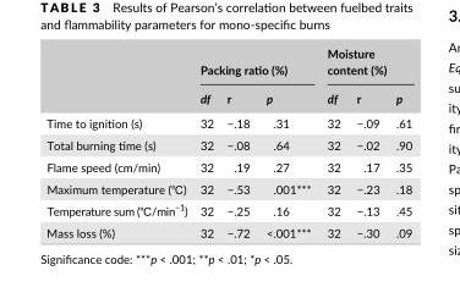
<table><thead><tr><td rowspan="2"></td><td colspan="3">Packing ratio (%)</td><td colspan="3">Moisture content (%)</td></tr><tr><td>df</td><td>r</td><td>p</td><td>df</td><td>r</td><td>p</td></tr></thead><tbody><tr><td>Time to ignition (s)</td><td>32</td><td>−.18</td><td>.31</td><td>32</td><td>−.09</td><td>.61</td></tr><tr><td>Total burning time (s)</td><td>32</td><td>−.08</td><td>.64</td><td>32</td><td>−.02</td><td>.90</td></tr><tr><td>Flame speed (cm/min)</td><td>32</td><td>.19</td><td>.27</td><td>32</td><td>.17</td><td>.35</td></tr><tr><td>Maximum temperature (℃)</td><td>32</td><td>−.53</td><td>.001***</td><td>32</td><td>−.23</td><td>.18</td></tr><tr><td>Temperature sum (℃/min<sup>−1</sup>)</td><td>32</td><td>−.25</td><td>.16</td><td>32</td><td>−.13</td><td>.45</td></tr><tr><td>Mass loss (%)</td><td>32</td><td>−.72</td><td>&lt;.001***</td><td>32</td><td>−.30</td><td>.09</td></tr></tbody></table>